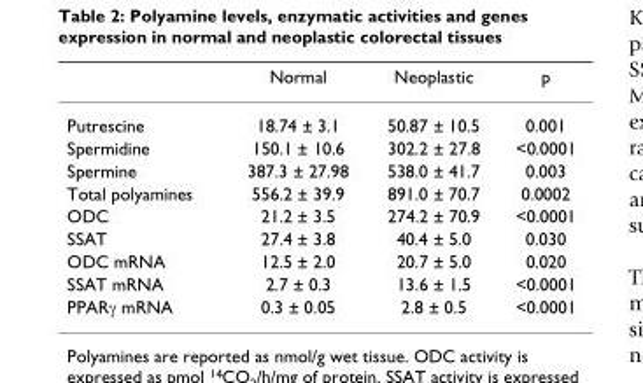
<table><thead><tr><td></td><td>Normal</td><td>Neoplastic</td><td>p</td></tr></thead><tbody><tr><td>Putrescine</td><td>18.74 ± 3.1</td><td>50.87 ± 10.5</td><td>0.001</td></tr><tr><td>Spermidine</td><td>150.1 ± 10.6</td><td>302.2 ± 27.8</td><td>&lt;0.0001</td></tr><tr><td>Spermine</td><td>387.3 ± 27.98</td><td>538.0 ± 41.7</td><td>0.003</td></tr><tr><td>Total polyamines</td><td>556.2 ± 39.9</td><td>891.0 ± 70.7</td><td>0.0002</td></tr><tr><td>ODC</td><td>21.2 ± 3.5</td><td>274.2 ± 70.9</td><td>&lt;0.0001</td></tr><tr><td>SSAT</td><td>27.4 ± 3.8</td><td>40.4 ± 5.0</td><td>0.030</td></tr><tr><td>ODC mRNA</td><td>12.5 ± 2.0</td><td>20.7 ± 5.0</td><td>0.020</td></tr><tr><td>SSAT mRNA</td><td>2.7 ± 0.3</td><td>13.6 ± 1.5</td><td>&lt;0.0001</td></tr><tr><td>PPARγ mRNA</td><td>0.3 ± 0.05</td><td>2.8 ± 0.5</td><td>&lt;0.0001</td></tr></tbody></table>